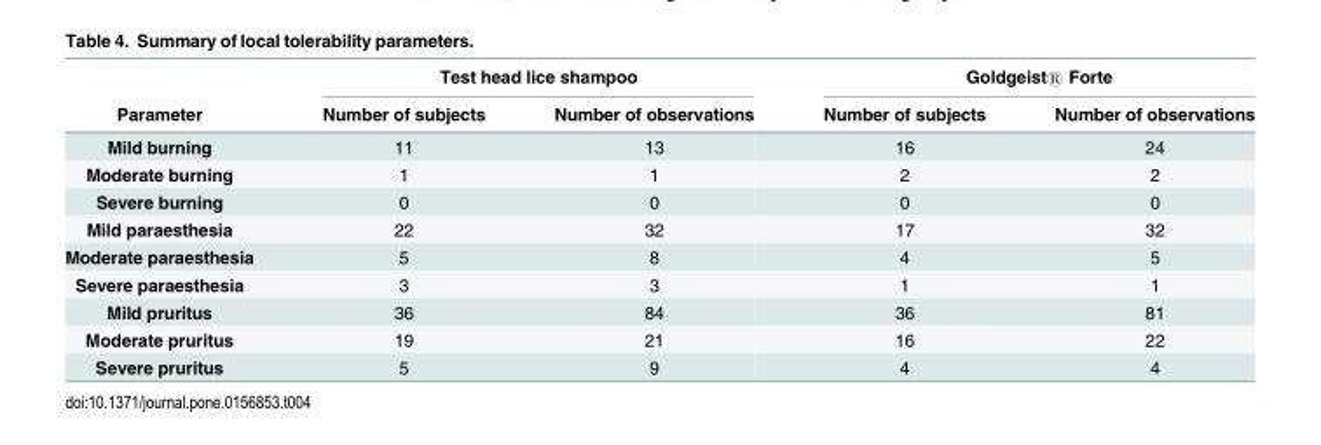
<table><thead><tr><td rowspan="2">Parameter</td><td colspan="2">Test head lice shampoo</td><td colspan="2">Goldgeist® Forte</td></tr><tr><td>Number of subjects</td><td>Number of observations</td><td>Number of subjects</td><td>Number of observations</td></tr></thead><tbody><tr><td>Mild burning</td><td>11</td><td>13</td><td>16</td><td>24</td></tr><tr><td>Moderate burning</td><td>1</td><td>1</td><td>2</td><td>2</td></tr><tr><td>Severe burning</td><td>0</td><td>0</td><td>0</td><td>0</td></tr><tr><td>Mild paraesthesia</td><td>22</td><td>32</td><td>17</td><td>32</td></tr><tr><td>Moderate paraesthesia</td><td>5</td><td>8</td><td>4</td><td>5</td></tr><tr><td>Severe paraesthesia</td><td>3</td><td>3</td><td>1</td><td>1</td></tr><tr><td>Mild pruritus</td><td>36</td><td>84</td><td>36</td><td>81</td></tr><tr><td>Moderate pruritus</td><td>19</td><td>21</td><td>16</td><td>22</td></tr><tr><td>Severe pruritus</td><td>5</td><td>9</td><td>4</td><td>4</td></tr></tbody></table>